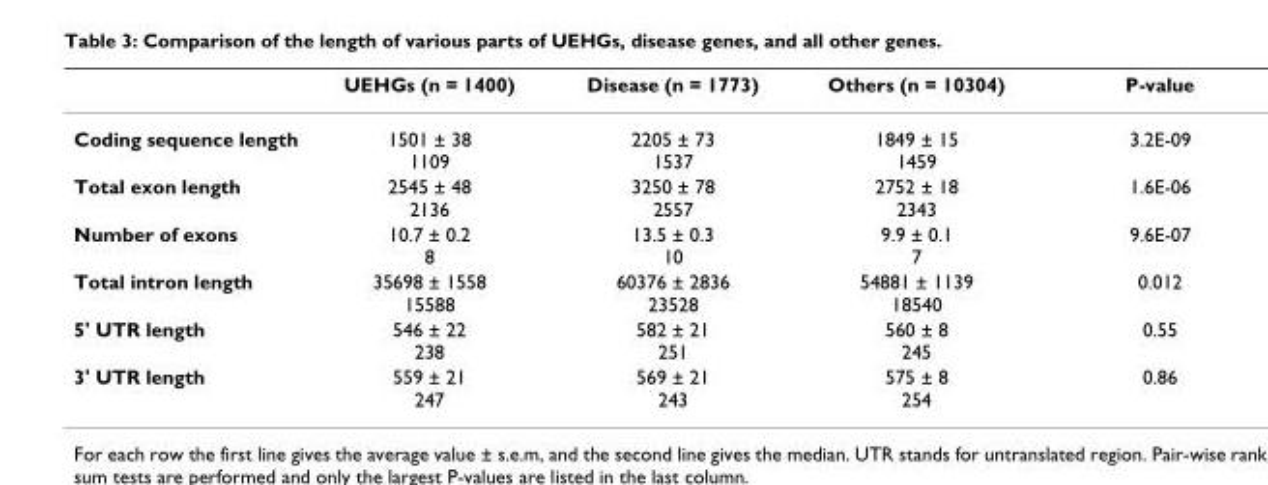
<table><thead><tr><td></td><td>UEHGs (n = 1400)</td><td>Disease (n = 1773)</td><td>Others (n = 10304)</td><td>P-value</td></tr></thead><tbody><tr><td>Coding sequence length</td><td>1501 ± 38 1109</td><td>2205 ± 73 1537</td><td>1849 ± 15 1459</td><td>3.2E-09</td></tr><tr><td>Total exon length</td><td>2545 ± 48 2136</td><td>3250 ± 78 2557</td><td>2752 ± 18 2343</td><td>1.6E-06</td></tr><tr><td>Number of exons</td><td>10.7 ± 0.2 8</td><td>13.5 ± 0.3 10</td><td>9.9 ± 0.1 7</td><td>9.6E-07</td></tr><tr><td>Total intron length</td><td>35698 ± 1558 15588</td><td>60376 ± 2836 23528</td><td>54881 ± 1139 18540</td><td>0.012</td></tr><tr><td>5&#x27; UTR length</td><td>546 ± 22 238</td><td>582 ± 21 251</td><td>560 ± 8 245</td><td>0.55</td></tr><tr><td>3&#x27; UTR length</td><td>559 ± 21 247</td><td>569 ± 21 243</td><td>575 ± 8 254</td><td>0.86</td></tr></tbody></table>